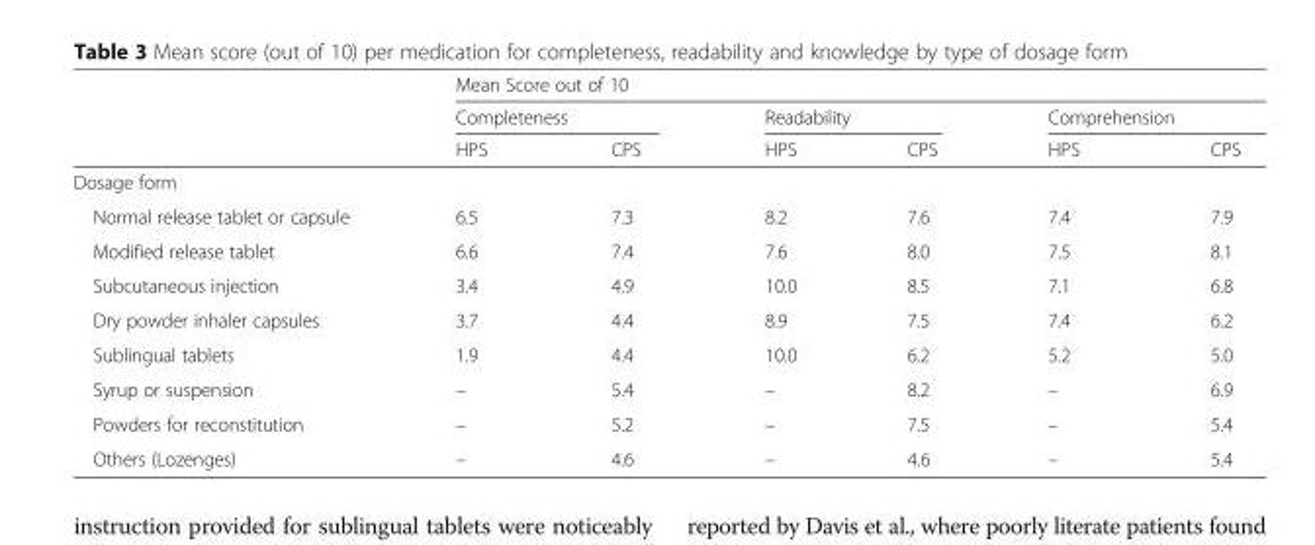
<table><thead><tr><td rowspan="3"></td><td colspan="6">Mean Score out of 10</td></tr><tr><td colspan="2">Completeness</td><td colspan="2">Readability</td><td colspan="2">Comprehension</td></tr><tr><td>HPS</td><td>CPS</td><td>HPS</td><td>CPS</td><td>HPS</td><td>CPS</td></tr></thead><tbody><tr><td colspan="7">Dosage form</td></tr><tr><td>Normal release tablet or capsule</td><td>6.5</td><td>7.3</td><td>8.2</td><td>7.6</td><td>7.4</td><td>7.9</td></tr><tr><td>Modified release tablet</td><td>6.6</td><td>7.4</td><td>7.6</td><td>8.0</td><td>7.5</td><td>8.1</td></tr><tr><td>Subcutaneous injection</td><td>3.4</td><td>4.9</td><td>10.0</td><td>8.5</td><td>7.1</td><td>6.8</td></tr><tr><td>Dry powder inhaler capsules</td><td>3.7</td><td>4.4</td><td>8.9</td><td>7.5</td><td>7.4</td><td>6.2</td></tr><tr><td>Sublingual tablets</td><td>1.9</td><td>4.4</td><td>10.0</td><td>6.2</td><td>5.2</td><td>5.0</td></tr><tr><td>Syrup or suspension</td><td>–</td><td>5.4</td><td>–</td><td>8.2</td><td>–</td><td>6.9</td></tr><tr><td>Powders for reconstitution</td><td>–</td><td>5.2</td><td>–</td><td>7.5</td><td>–</td><td>5.4</td></tr><tr><td>Others (Lozenges)</td><td>–</td><td>4.6</td><td>–</td><td>4.6</td><td>–</td><td>5.4</td></tr></tbody></table>